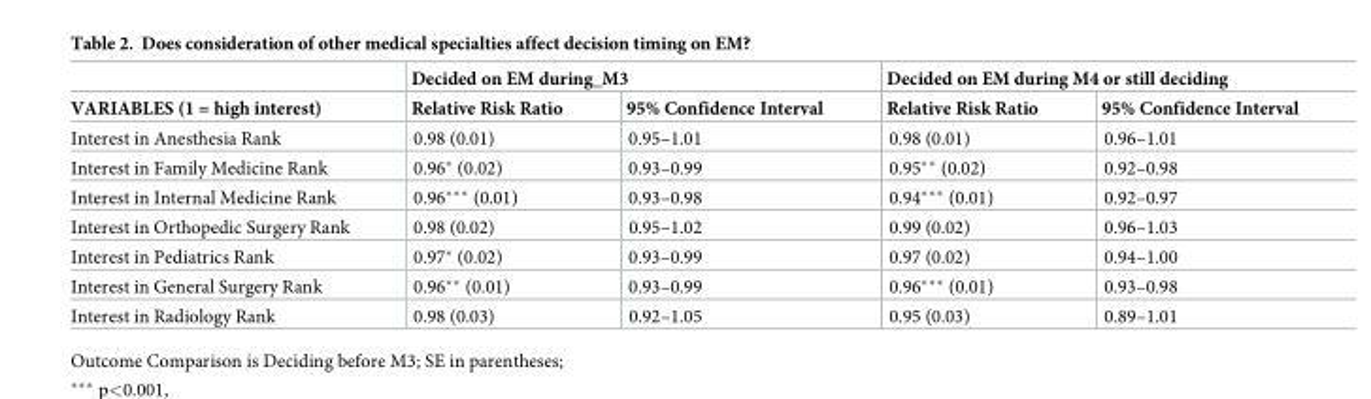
<table><thead><tr><td rowspan="2">VARIABLES (1 = high interest)</td><td colspan="2">Decided on EM during_M3</td><td colspan="2">Decided on EM during M4 or still deciding</td></tr><tr><td>Relative Risk Ratio</td><td>95% Confidence Interval</td><td>Relative Risk Ratio</td><td>95% Confidence Interval</td></tr></thead><tbody><tr><td>Interest in Anesthesia Rank</td><td>0.98 (0.01)</td><td>0.95–1.01</td><td>0.98 (0.01)</td><td>0.96–1.01</td></tr><tr><td>Interest in Family Medicine Rank</td><td>0.96* (0.02)</td><td>0.93–0.99</td><td>0.95** (0.02)</td><td>0.92–0.98</td></tr><tr><td>Interest in Internal Medicine Rank</td><td>0.96*** (0.01)</td><td>0.93–0.98</td><td>0.94*** (0.01)</td><td>0.92–0.97</td></tr><tr><td>Interest in Orthopedic Surgery Rank</td><td>0.98 (0.02)</td><td>0.95–1.02</td><td>0.99 (0.02)</td><td>0.96–1.03</td></tr><tr><td>Interest in Pediatrics Rank</td><td>0.97* (0.02)</td><td>0.93–0.99</td><td>0.97 (0.02)</td><td>0.94–1.00</td></tr><tr><td>Interest in General Surgery Rank</td><td>0.96** (0.01)</td><td>0.93–0.99</td><td>0.96*** (0.01)</td><td>0.93–0.98</td></tr><tr><td>Interest in Radiology Rank</td><td>0.98 (0.03)</td><td>0.92–1.05</td><td>0.95 (0.03)</td><td>0.89–1.01</td></tr></tbody></table>